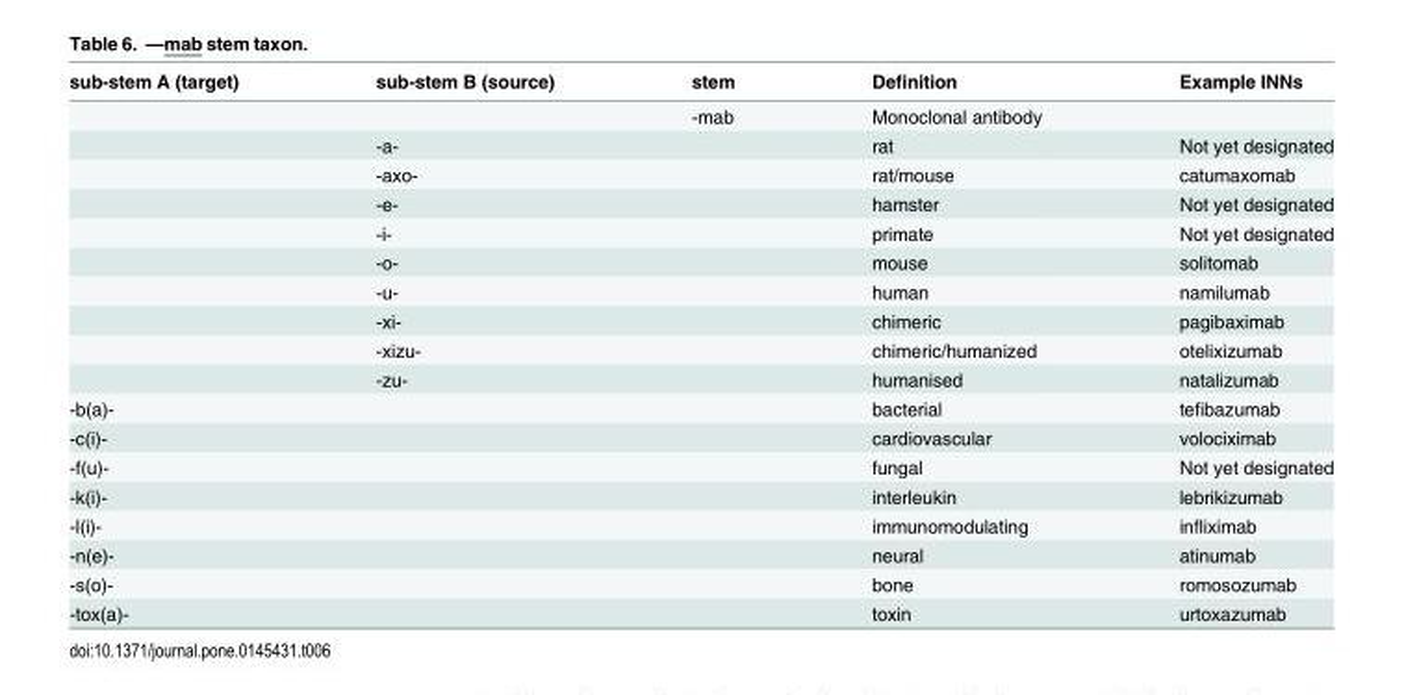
<table><thead><tr><td>sub-stem A (target)</td><td>sub-stem B (source)</td><td>stem</td><td>Definition</td><td>Example INNs</td></tr></thead><tbody><tr><td></td><td></td><td>-mab</td><td>Monoclonal antibody</td><td></td></tr><tr><td></td><td>-a-</td><td></td><td>rat</td><td>Not yet designated</td></tr><tr><td></td><td>-axo-</td><td></td><td>rat/mouse</td><td>catumaxomab</td></tr><tr><td></td><td>-e-</td><td></td><td>hamster</td><td>Not yet designated</td></tr><tr><td></td><td>-i-</td><td></td><td>primate</td><td>Not yet designated</td></tr><tr><td></td><td>-o-</td><td></td><td>mouse</td><td>solitomab</td></tr><tr><td></td><td>-u-</td><td></td><td>human</td><td>namilumab</td></tr><tr><td></td><td>-xi-</td><td></td><td>chimeric</td><td>pagibaximab</td></tr><tr><td></td><td>-xizu-</td><td></td><td>chimeric/humanized</td><td>otelixizumab</td></tr><tr><td></td><td>-zu-</td><td></td><td>humanised</td><td>natalizumab</td></tr><tr><td>-b(a)-</td><td></td><td></td><td>bacterial</td><td>tefibazumab</td></tr><tr><td>-c(i)-</td><td></td><td></td><td>cardiovascular</td><td>volociximab</td></tr><tr><td>-f(u)-</td><td></td><td></td><td>fungal</td><td>Not yet designated</td></tr><tr><td>-k(i)-</td><td></td><td></td><td>interleukin</td><td>lebrikizumab</td></tr><tr><td>-l(i)-</td><td></td><td></td><td>immunomodulating</td><td>infliximab</td></tr><tr><td>-n(e)-</td><td></td><td></td><td>neural</td><td>atinumab</td></tr><tr><td>-s(o)-</td><td></td><td></td><td>bone</td><td>romosozumab</td></tr><tr><td>-tox(a)-</td><td></td><td></td><td>toxin</td><td>urtoxazumab</td></tr></tbody></table>